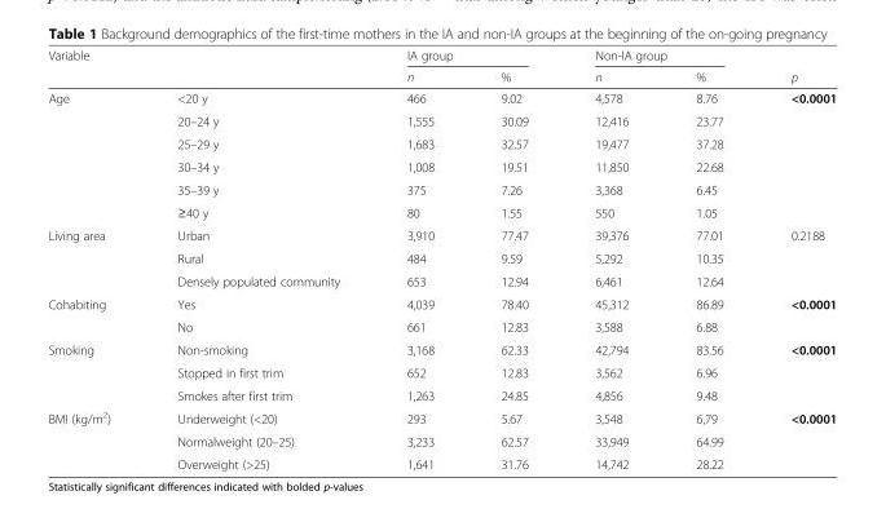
<table><thead><tr><td rowspan="2">Variable</td><td rowspan="2"></td><td colspan="2">IA group</td><td colspan="2">Non-IA group</td><td rowspan="2">p</td></tr><tr><td>n</td><td>%</td><td>n</td><td>%</td></tr></thead><tbody><tr><td rowspan="6">Age</td><td>&lt;20 y</td><td>466</td><td>9.02</td><td>4,578</td><td>8.76</td><td rowspan="6">&lt;0.0001</td></tr><tr><td>20–24 y</td><td>1,555</td><td>30.09</td><td>12,416</td><td>23.77</td></tr><tr><td>25–29 y</td><td>1,683</td><td>32.57</td><td>19,477</td><td>37.28</td></tr><tr><td>30–34 y</td><td>1,008</td><td>19.51</td><td>11,850</td><td>22.68</td></tr><tr><td>35–39 y</td><td>375</td><td>7.26</td><td>3,368</td><td>6.45</td></tr><tr><td>≥40 y</td><td>80</td><td>1.55</td><td>550</td><td>1.05</td></tr><tr><td rowspan="3">Living area</td><td>Urban</td><td>3,910</td><td>77.47</td><td>39,376</td><td>77.01</td><td rowspan="3">0.2188</td></tr><tr><td>Rural</td><td>484</td><td>9.59</td><td>5,292</td><td>10.35</td></tr><tr><td>Densely populated community</td><td>653</td><td>12.94</td><td>6,461</td><td>12.64</td></tr><tr><td rowspan="2">Cohabiting</td><td>Yes</td><td>4,039</td><td>78.40</td><td>45,312</td><td>86.89</td><td rowspan="2">&lt;0.0001</td></tr><tr><td>No</td><td>661</td><td>12.83</td><td>3,588</td><td>6.88</td></tr><tr><td rowspan="3">Smoking</td><td>Non-smoking</td><td>3,168</td><td>62.33</td><td>42,794</td><td>83.56</td><td rowspan="3">&lt;0.0001</td></tr><tr><td>Stopped in first trim</td><td>652</td><td>12.83</td><td>3,562</td><td>6.96</td></tr><tr><td>Smokes after first trim</td><td>1,263</td><td>24.85</td><td>4,856</td><td>9.48</td></tr><tr><td rowspan="3">BMI (kg/m<sup>2</sup>)</td><td>Underweight (&lt;20)</td><td>293</td><td>5.67</td><td>3,548</td><td>6,79</td><td rowspan="3">&lt;0.0001</td></tr><tr><td>Normalweight (20–25)</td><td>3,233</td><td>62.57</td><td>33,949</td><td>64.99</td></tr><tr><td>Overweight (&gt;25)</td><td>1,641</td><td>31.76</td><td>14,742</td><td>28.22</td></tr></tbody></table>